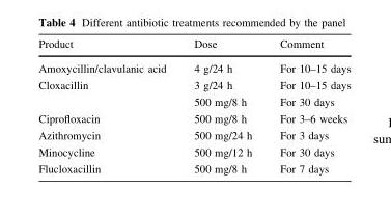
<table><thead><tr><td>Product</td><td>Dose</td><td>Comment</td></tr></thead><tbody><tr><td>Amoxycillin/clavulanic acid</td><td>4 g/24 h</td><td>For 10–15 days</td></tr><tr><td rowspan="2">Cloxacillin</td><td>3 g/24 h</td><td>For 10–15 days</td></tr><tr><td>500 mg/8 h</td><td>For 30 days</td></tr><tr><td>Ciprofloxacin</td><td>500 mg/8 h</td><td>For 3–6 weeks</td></tr><tr><td>Azithromycin</td><td>500 mg/24 h</td><td>For 3 days</td></tr><tr><td>Minocycline</td><td>500 mg/12 h</td><td>For 30 days</td></tr><tr><td>Flucloxacillin</td><td>500 mg/8 h</td><td>For 7 days</td></tr></tbody></table>